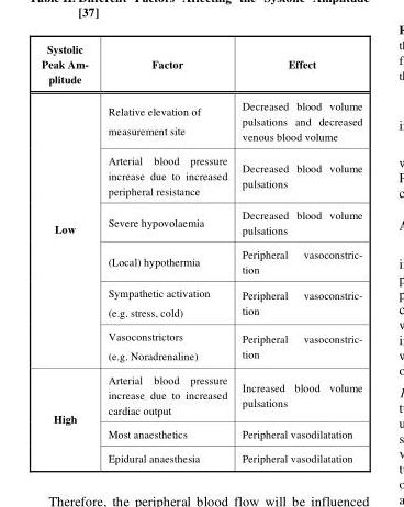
<table><thead><tr><td>Systolic Peak Am- plitude</td><td>Factor</td><td>Effect</td></tr></thead><tbody><tr><td rowspan="6">Low</td><td>Relative elevation of measurement site</td><td>Decreased blood volume pulsations and decreased venous blood volume</td></tr><tr><td>Arterial blood pressure increase due to increased peripheral resistance</td><td>Decreased blood volume pulsations</td></tr><tr><td>Severe hypovolaemia</td><td>Decreased blood volume pulsations</td></tr><tr><td>(Local) hypothermia</td><td>Peripheral vasoconstric- tion</td></tr><tr><td>Sympathetic activation (e.g. stress, cold)</td><td>Peripheral vasoconstric- tion</td></tr><tr><td>Vasoconstrictors (e.g. Noradrenaline)</td><td>Peripheral vasoconstric- tion</td></tr><tr><td rowspan="3">High</td><td>Arterial blood pressure increase due to increased cardiac output</td><td>Increased blood volume pulsations</td></tr><tr><td>Most anaesthetics</td><td>Peripheral vasodilatation</td></tr><tr><td>Epidural anaesthesia</td><td>Peripheral vasodilatation</td></tr></tbody></table>